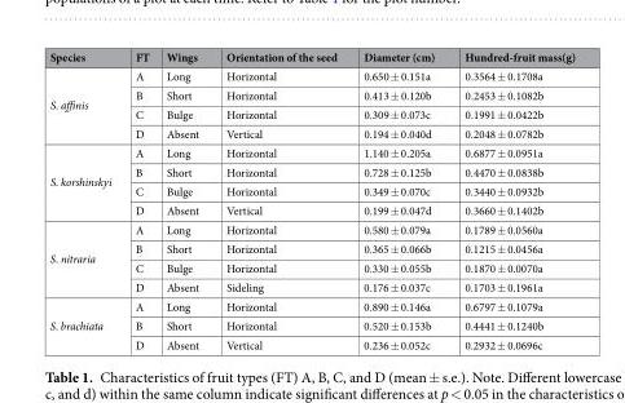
<table><thead><tr><td>Species</td><td>FT</td><td>Wings</td><td>Orientation of the seed</td><td>Diameter (cm)</td><td>Hundred-fruit mass(g)</td></tr></thead><tbody><tr><td rowspan="4">S. affinis</td><td>A</td><td>Long</td><td>Horizontal</td><td>0.650 ± 0.151a</td><td>0.3564 ± 0.1708a</td></tr><tr><td>B</td><td>Short</td><td>Horizontal</td><td>0.413 ± 0.120b</td><td>0.2453 ± 0.1082b</td></tr><tr><td>C</td><td>Bulge</td><td>Horizontal</td><td>0.309 ± 0.073c</td><td>0.1991 ± 0.0422b</td></tr><tr><td>D</td><td>Absent</td><td>Vertical</td><td>0.194 ± 0.040d</td><td>0.2048 ± 0.0782b</td></tr><tr><td rowspan="4">S. korshinskyi</td><td>A</td><td>Long</td><td>Horizontal</td><td>1.140 ± 0.205a</td><td>0.6877 ± 0.0951a</td></tr><tr><td>B</td><td>Short</td><td>Horizontal</td><td>0.728 ± 0.125b</td><td>0.4470 ± 0.0838b</td></tr><tr><td>C</td><td>Bulge</td><td>Horizontal</td><td>0.349 ± 0.070c</td><td>0.3440 ± 0.0932b</td></tr><tr><td>D</td><td>Absent</td><td>Vertical</td><td>0.199 ± 0.047d</td><td>0.3660 ± 0.1402b</td></tr><tr><td rowspan="4">S. nitraria</td><td>A</td><td>Long</td><td>Horizontal</td><td>0.580 ± 0.079a</td><td>0.1789 ± 0.0560a</td></tr><tr><td>B</td><td>Short</td><td>Horizontal</td><td>0.365 ± 0.066b</td><td>0.1215 ± 0.0456a</td></tr><tr><td>C</td><td>Bulge</td><td>Horizontal</td><td>0.330 ± 0.055b</td><td>0.1870 ± 0.0070a</td></tr><tr><td>D</td><td>Absent</td><td>Sideling</td><td>0.176 ± 0.037c</td><td>0.1703 ± 0.1961a</td></tr><tr><td rowspan="3">S. brachiata</td><td>A</td><td>Long</td><td>Horizontal</td><td>0.890 ± 0.146a</td><td>0.6797 ± 0.1079a</td></tr><tr><td>B</td><td>Short</td><td>Horizontal</td><td>0.520 ± 0.153b</td><td>0.4441 ± 0.1240b</td></tr><tr><td>D</td><td>Absent</td><td>Vertical</td><td>0.236 ± 0.052c</td><td>0.2932 ± 0.0696c</td></tr></tbody></table>